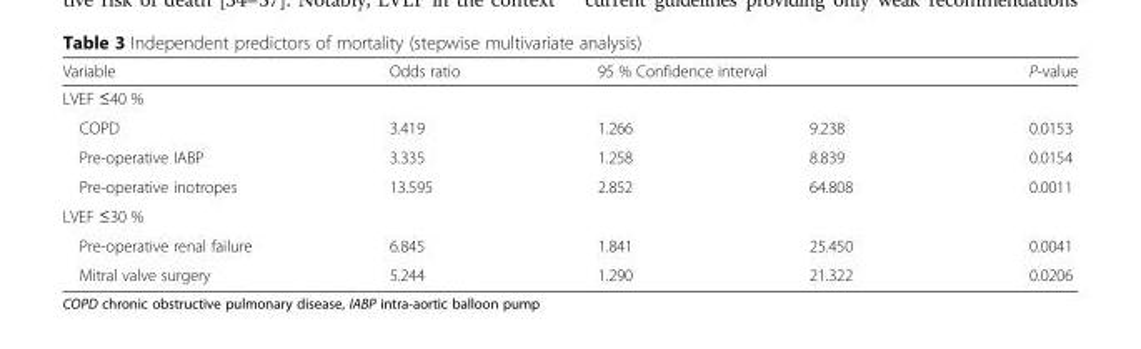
<table><thead><tr><td>Variable</td><td>Odds ratio</td><td colspan="2">95 % Confidence interval</td><td>P-value</td></tr><tr><td colspan="5">LVEF ≤40 %</td></tr><tr><td>COPD</td><td>3.419</td><td>1.266</td><td>9.238</td><td>0.0153</td></tr></thead><tbody><tr><td>Pre-operative IABP</td><td>3.335</td><td>1.258</td><td>8.839</td><td>0.0154</td></tr><tr><td>Pre-operative inotropes</td><td>13.595</td><td>2.852</td><td>64.808</td><td>0.0011</td></tr><tr><td colspan="5">LVEF ≤30 %</td></tr><tr><td>Pre-operative renal failure</td><td>6.845</td><td>1.841</td><td>25.450</td><td>0.0041</td></tr><tr><td>Mitral valve surgery</td><td>5.244</td><td>1.290</td><td>21.322</td><td>0.0206</td></tr></tbody></table>